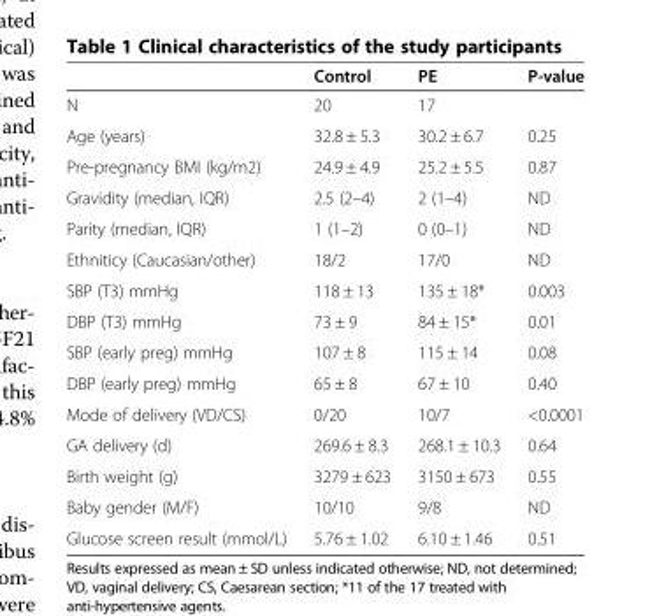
<table><thead><tr><td></td><td>Control</td><td>PE</td><td>P-value</td></tr></thead><tbody><tr><td>N</td><td>20</td><td>17</td><td></td></tr><tr><td>Age (years)</td><td>32.8 ± 5.3</td><td>30.2 ± 6.7</td><td>0.25</td></tr><tr><td>Pre-pregnancy BMI (kg/m2)</td><td>24.9 ± 4.9</td><td>25.2 ± 5.5</td><td>0.87</td></tr><tr><td>Gravidity (median, IQR)</td><td>2.5 (2–4)</td><td>2 (1–4)</td><td>ND</td></tr><tr><td>Parity (median, IQR)</td><td>1 (1–2)</td><td>0 (0–1)</td><td>ND</td></tr><tr><td>Ethniticy (Caucasian/other)</td><td>18/2</td><td>17/0</td><td>ND</td></tr><tr><td>SBP (T3) mmHg</td><td>118 ± 13</td><td>135 ± 18*</td><td>0.003</td></tr><tr><td>DBP (T3) mmHg</td><td>73 ± 9</td><td>84 ± 15*</td><td>0.01</td></tr><tr><td>SBP (early preg) mmHg</td><td>107 ± 8</td><td>115 ± 14</td><td>0.08</td></tr><tr><td>DBP (early preg) mmHg</td><td>65 ± 8</td><td>67 ± 10</td><td>0.40</td></tr><tr><td>Mode of delivery (VD/CS)</td><td>0/20</td><td>10/7</td><td>&lt;0.0001</td></tr><tr><td>GA delivery (d)</td><td>269.6 ± 8.3</td><td>268.1 ± 10.3</td><td>0.64</td></tr><tr><td>Birth weight (g)</td><td>3279 ± 623</td><td>3150 ± 673</td><td>0.55</td></tr><tr><td>Baby gender (M/F)</td><td>10/10</td><td>9/8</td><td>ND</td></tr><tr><td>Glucose screen result (mmol/L)</td><td>5.76 ± 1.02</td><td>6.10 ± 1.46</td><td>0.51</td></tr></tbody></table>